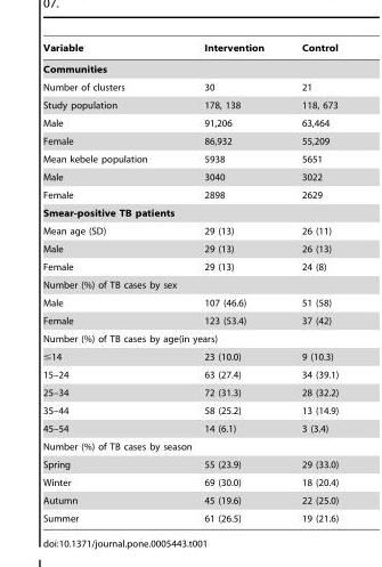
<table><thead><tr><td>Variable</td><td>Intervention</td><td>Control</td></tr></thead><tbody><tr><td colspan="3">Communities</td></tr><tr><td>Number of clusters</td><td>30</td><td>21</td></tr><tr><td>Study population</td><td>178, 138</td><td>118, 673</td></tr><tr><td>Male</td><td>91,206</td><td>63,464</td></tr><tr><td>Female</td><td>86,932</td><td>55,209</td></tr><tr><td>Mean kebele population</td><td>5938</td><td>5651</td></tr><tr><td>Male</td><td>3040</td><td>3022</td></tr><tr><td>Female</td><td>2898</td><td>2629</td></tr><tr><td colspan="3">Smear-positive TB patients</td></tr><tr><td>Mean age (SD)</td><td>29 (13)</td><td>26 (11)</td></tr><tr><td>Male</td><td>29 (13)</td><td>26 (13)</td></tr><tr><td>Female</td><td>29 (13)</td><td>24 (8)</td></tr><tr><td colspan="3">Number (%) of TB cases by sex</td></tr><tr><td>Male</td><td>107 (46.6)</td><td>51 (58)</td></tr><tr><td>Female</td><td>123 (53.4)</td><td>37 (42)</td></tr><tr><td colspan="3">Number (%) of TB cases by age(in years)</td></tr><tr><td>≤14</td><td>23 (10.0)</td><td>9 (10.3)</td></tr><tr><td>15–24</td><td>63 (27.4)</td><td>34 (39.1)</td></tr><tr><td>25–34</td><td>72 (31.3)</td><td>28 (32.2)</td></tr><tr><td>35–44</td><td>58 (25.2)</td><td>13 (14.9)</td></tr><tr><td>45–54</td><td>14 (6.1)</td><td>3 (3.4)</td></tr><tr><td colspan="3">Number (%) of TB cases by season</td></tr><tr><td>Spring</td><td>55 (23.9)</td><td>29 (33.0)</td></tr><tr><td>Winter</td><td>69 (30.0)</td><td>18 (20.4)</td></tr><tr><td>Autumn</td><td>45 (19.6)</td><td>22 (25.0)</td></tr><tr><td>Summer</td><td>61 (26.5)</td><td>19 (21.6)</td></tr></tbody></table>